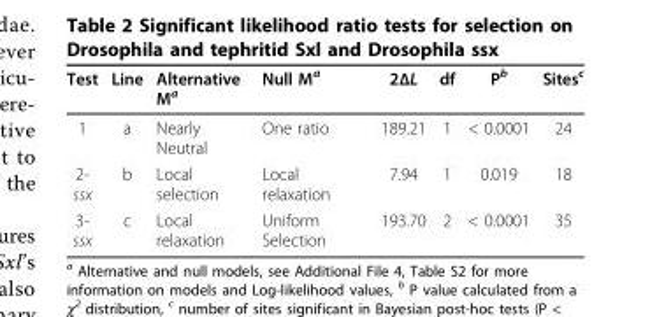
<table><thead><tr><td>Test</td><td>Line</td><td>Alternative M<sup>a</sup></td><td>Null M<sup>a</sup></td><td>2ΔL</td><td>df</td><td>P<sup>b</sup></td><td>Sites<sup>c</sup></td></tr></thead><tbody><tr><td>1</td><td>a</td><td>Nearly Neutral</td><td>One ratio</td><td>189.21</td><td>1</td><td>&lt; 0.0001</td><td>24</td></tr><tr><td>2- ssx</td><td>b</td><td>Local selection</td><td>Local relaxation</td><td>7.94</td><td>1</td><td>0.019</td><td>18</td></tr><tr><td>3- ssx</td><td>c</td><td>Local relaxation</td><td>Uniform Selection</td><td>193.70</td><td>2</td><td>&lt; 0.0001</td><td>35</td></tr></tbody></table>